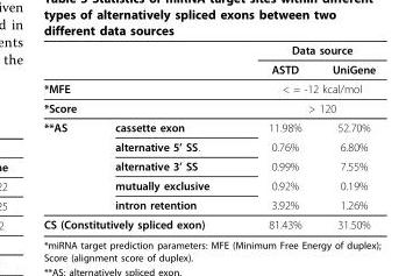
<table><thead><tr><td rowspan="2"></td><td rowspan="2"></td><td colspan="2">Data source</td></tr><tr><td>ASTD</td><td>UniGene</td></tr></thead><tbody><tr><td colspan="2">*MFE</td><td colspan="2">&lt; = -12 kcal/mol</td></tr><tr><td colspan="2">*Score</td><td colspan="2">&gt; 120</td></tr><tr><td rowspan="5">**AS</td><td>cassette exon</td><td>11.98%</td><td>52.70%</td></tr><tr><td>alternative 5’ SS.</td><td>0.76%</td><td>6.80%</td></tr><tr><td>alternative 3’ SS</td><td>0.99%</td><td>7.55%</td></tr><tr><td>mutually exclusive</td><td>0.92%</td><td>0.19%</td></tr><tr><td>intron retention</td><td>3.92%</td><td>1.26%</td></tr><tr><td colspan="2">CS (Constitutively spliced exon)</td><td>81.43%</td><td>31.50%</td></tr></tbody></table>